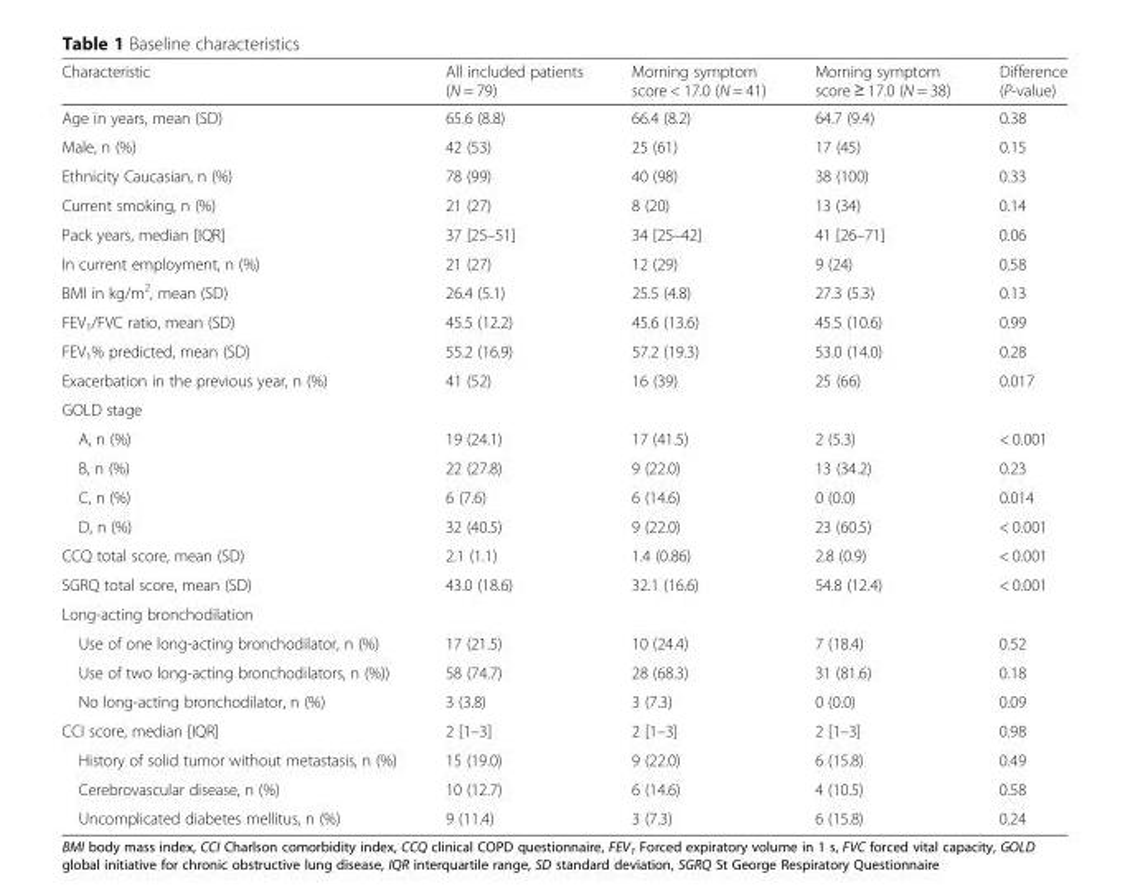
<table><thead><tr><td>Characteristic</td><td>All included patients (N = 79)</td><td>Morning symptom score &lt; 17.0 (N = 41)</td><td>Morning symptom score ≥ 17.0 (N = 38)</td><td>Difference (P-value)</td></tr></thead><tbody><tr><td>Age in years, mean (SD)</td><td>65.6 (8.8)</td><td>66.4 (8.2)</td><td>64.7 (9.4)</td><td>0.38</td></tr><tr><td>Male, n (%)</td><td>42 (53)</td><td>25 (61)</td><td>17 (45)</td><td>0.15</td></tr><tr><td>Ethnicity Caucasian, n (%)</td><td>78 (99)</td><td>40 (98)</td><td>38 (100)</td><td>0.33</td></tr><tr><td>Current smoking, n (%)</td><td>21 (27)</td><td>8 (20)</td><td>13 (34)</td><td>0.14</td></tr><tr><td>Pack years, median [IQR]</td><td>37 [25–51]</td><td>34 [25–42]</td><td>41 [26–71]</td><td>0.06</td></tr><tr><td>In current employment, n (%)</td><td>21 (27)</td><td>12 (29)</td><td>9 (24)</td><td>0.58</td></tr><tr><td>BMI in kg/m<sup>2</sup>, mean (SD)</td><td>26.4 (5.1)</td><td>25.5 (4.8)</td><td>27.3 (5.3)</td><td>0.13</td></tr><tr><td>FEV<sub>1</sub>/FVC ratio, mean (SD)</td><td>45.5 (12.2)</td><td>45.6 (13.6)</td><td>45.5 (10.6)</td><td>0.99</td></tr><tr><td>FEV<sub>1</sub>% predicted, mean (SD)</td><td>55.2 (16.9)</td><td>57.2 (19.3)</td><td>53.0 (14.0)</td><td>0.28</td></tr><tr><td>Exacerbation in the previous year, n (%)</td><td>41 (52)</td><td>16 (39)</td><td>25 (66)</td><td>0.017</td></tr><tr><td colspan="5">GOLD stage</td></tr><tr><td>A, n (%)</td><td>19 (24.1)</td><td>17 (41.5)</td><td>2 (5.3)</td><td>&lt; 0.001</td></tr><tr><td>B, n (%)</td><td>22 (27.8)</td><td>9 (22.0)</td><td>13 (34.2)</td><td>0.23</td></tr><tr><td>C, n (%)</td><td>6 (7.6)</td><td>6 (14.6)</td><td>0 (0.0)</td><td>0.014</td></tr><tr><td>D, n (%)</td><td>32 (40.5)</td><td>9 (22.0)</td><td>23 (60.5)</td><td>&lt; 0.001</td></tr><tr><td>CCQ total score, mean (SD)</td><td>2.1 (1.1)</td><td>1.4 (0.86)</td><td>2.8 (0.9)</td><td>&lt; 0.001</td></tr><tr><td>SGRQ total score, mean (SD)</td><td>43.0 (18.6)</td><td>32.1 (16.6)</td><td>54.8 (12.4)</td><td>&lt; 0.001</td></tr><tr><td colspan="5">Long-acting bronchodilation</td></tr><tr><td>Use of one long-acting bronchodilator, n (%)</td><td>17 (21.5)</td><td>10 (24.4)</td><td>7 (18.4)</td><td>0.52</td></tr><tr><td>Use of two long-acting bronchodilators, n (%))</td><td>58 (74.7)</td><td>28 (68.3)</td><td>31 (81.6)</td><td>0.18</td></tr><tr><td>No long-acting bronchodilator, n (%)</td><td>3 (3.8)</td><td>3 (7.3)</td><td>0 (0.0)</td><td>0.09</td></tr><tr><td>CCI score, median [IQR]</td><td>2 [1–3]</td><td>2 [1–3]</td><td>2 [1–3]</td><td>0.98</td></tr><tr><td>History of solid tumor without metastasis, n (%)</td><td>15 (19.0)</td><td>9 (22.0)</td><td>6 (15.8)</td><td>0.49</td></tr><tr><td>Cerebrovascular disease, n (%)</td><td>10 (12.7)</td><td>6 (14.6)</td><td>4 (10.5)</td><td>0.58</td></tr><tr><td>Uncomplicated diabetes mellitus, n (%)</td><td>9 (11.4)</td><td>3 (7.3)</td><td>6 (15.8)</td><td>0.24</td></tr></tbody></table>